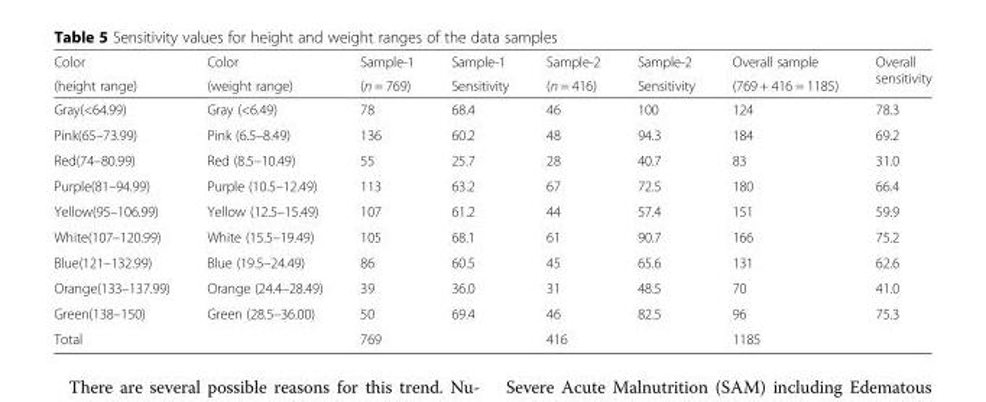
<table><thead><tr><td rowspan="2">Color (height range)</td><td rowspan="2">Color (weight range)</td><td rowspan="2">Sample-1 (n = 769)</td><td rowspan="2">Sample-1 Sensitivity</td><td rowspan="2">Sample-2 (n = 416)</td><td rowspan="2">Sample-2 Sensitivity</td><td rowspan="2">Overall sample (769 + 416 = 1185)</td><td rowspan="2">Overall sensitivity</td></tr><tr></tr></thead><tbody><tr><td>Gray(&lt;64.99)</td><td>Gray (&lt;6.49)</td><td>78</td><td>68.4</td><td>46</td><td>100</td><td>124</td><td>78.3</td></tr><tr><td>Pink(65–73.99)</td><td>Pink (6.5–8.49)</td><td>136</td><td>60.2</td><td>48</td><td>94.3</td><td>184</td><td>69.2</td></tr><tr><td>Red(74–80.99)</td><td>Red (8.5–10.49)</td><td>55</td><td>25.7</td><td>28</td><td>40.7</td><td>83</td><td>31.0</td></tr><tr><td>Purple(81–94.99)</td><td>Purple (10.5–12.49)</td><td>113</td><td>63.2</td><td>67</td><td>72.5</td><td>180</td><td>66.4</td></tr><tr><td>Yellow(95–106.99)</td><td>Yellow (12.5–15.49)</td><td>107</td><td>61.2</td><td>44</td><td>57.4</td><td>151</td><td>59.9</td></tr><tr><td>White(107–120.99)</td><td>White (15.5–19.49)</td><td>105</td><td>68.1</td><td>61</td><td>90.7</td><td>166</td><td>75.2</td></tr><tr><td>Blue(121–132.99)</td><td>Blue (19.5–24.49)</td><td>86</td><td>60.5</td><td>45</td><td>65.6</td><td>131</td><td>62.6</td></tr><tr><td>Orange(133–137.99)</td><td>Orange (24.4–28.49)</td><td>39</td><td>36.0</td><td>31</td><td>48.5</td><td>70</td><td>41.0</td></tr><tr><td>Green(138–150)</td><td>Green (28.5–36.00)</td><td>50</td><td>69.4</td><td>46</td><td>82.5</td><td>96</td><td>75.3</td></tr><tr><td>Total</td><td></td><td>769</td><td></td><td>416</td><td></td><td>1185</td><td></td></tr></tbody></table>